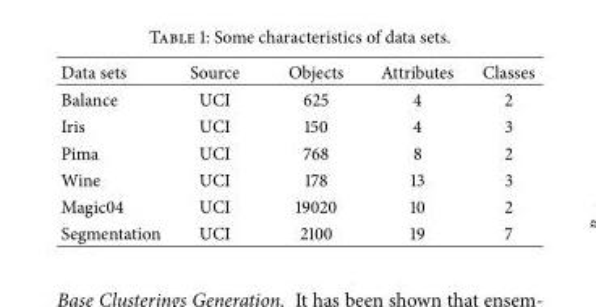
<table><thead><tr><td>Data sets</td><td>Source</td><td>Objects</td><td>Attributes</td><td>Classes</td></tr></thead><tbody><tr><td>Balance</td><td>UCI</td><td>625</td><td>4</td><td>2</td></tr><tr><td>Iris</td><td>UCI</td><td>150</td><td>4</td><td>3</td></tr><tr><td>Pima</td><td>UCI</td><td>768</td><td>8</td><td>2</td></tr><tr><td>Wine</td><td>UCI</td><td>178</td><td>13</td><td>3</td></tr><tr><td>Magic04</td><td>UCI</td><td>19020</td><td>10</td><td>2</td></tr><tr><td>Segmentation</td><td>UCI</td><td>2100</td><td>19</td><td>7</td></tr></tbody></table>